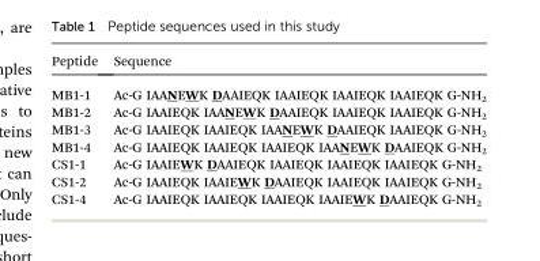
<table><thead><tr><td>Peptide</td><td>Sequence</td></tr></thead><tbody><tr><td>MB1-1</td><td>Ac-G IAANEWK DAAIEQK IAAIEQK IAAIEQK IAAIEQK G-NH<sub>2</sub></td></tr><tr><td>MB1-2</td><td>Ac-G IAAIEQK IAANEWK DAAIEQK IAAIEQK IAAIEQK G-NH<sub>2</sub></td></tr><tr><td>MB1-3</td><td>Ac-G IAAIEQK IAAIEQK IAANEWK DAAIEQK IAAIEQK G-NH<sub>2</sub></td></tr><tr><td>MB1-4</td><td>Ac-G IAAIEQK IAAIEQK IAAIEQK IAANEWK DAAIEQK G-NH<sub>2</sub></td></tr><tr><td>CS1-1</td><td>Ac-G IAAIEWK DAAIEQK IAAIEQK IAAIEQK IAAIEQK G-NH<sub>2</sub></td></tr><tr><td>CS1-2</td><td>Ac-G IAAIEQK IAAIEWK DAAIEQK IAAIEQK IAAIEQK G-NH<sub>2</sub></td></tr><tr><td>CS1-4</td><td>Ac-G IAAIEQK IAAIEQK IAAIEQK IAAIEWK DAAIEQK G-NH<sub>2</sub></td></tr></tbody></table>